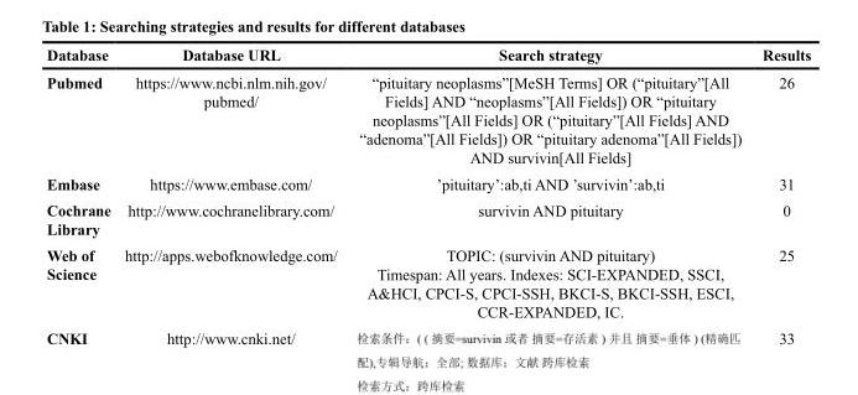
<table><thead><tr><td>Database</td><td>Database URL</td><td>Search strategy</td><td>Results</td></tr></thead><tbody><tr><td>Pubmed</td><td>https://www.ncbi.nlm.nih.gov/ pubmed/</td><td>“pituitary neoplasms”[MeSH Terms] OR (“pituitary”[All Fields] AND “neoplasms”[All Fields]) OR “pituitary neoplasms”[All Fields] OR (“pituitary”[All Fields] AND “adenoma”[All Fields]) OR “pituitary adenoma”[All Fields]) AND survivin[All Fields]</td><td>26</td></tr><tr><td>Embase</td><td>https://www.embase.com/</td><td>’pituitary’:ab,ti AND ’survivin’:ab,ti</td><td>31</td></tr><tr><td>Cochrane Library</td><td>http://www.cochranelibrary.com/</td><td>survivin AND pituitary</td><td>0</td></tr><tr><td>Web of Science</td><td>http://apps.webofknowledge.com/</td><td>TOPIC: (survivin AND pituitary) Timespan: All years. Indexes: SCI-EXPANDED, SSCI, A&amp;HCI, CPCI-S, CPCI-SSH, BKCI-S, BKCI-SSH, ESCI, CCR-EXPANDED, IC.</td><td>25</td></tr><tr><td>CNKI</td><td>http://www.cnki.net/</td><td></td><td>33</td></tr></tbody></table>